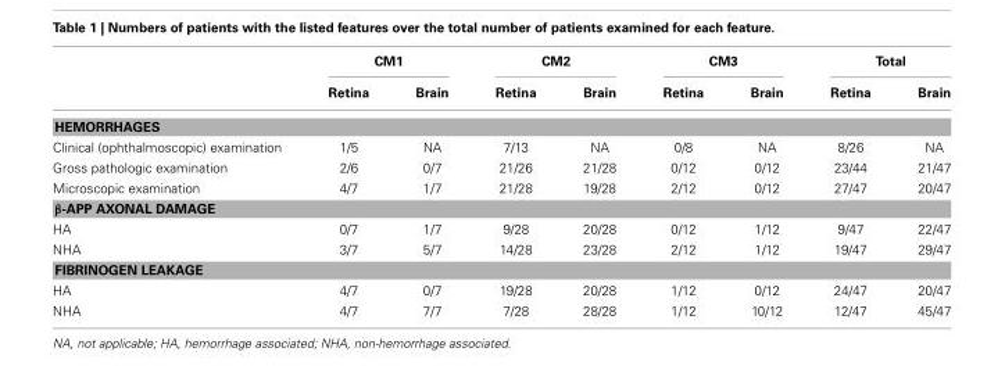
<table><thead><tr><td rowspan="2"></td><td colspan="2">CM1</td><td colspan="2">CM2</td><td colspan="2">CM3</td><td colspan="2">Total</td></tr><tr><td>Retina</td><td>Brain</td><td>Retina</td><td>Brain</td><td>Retina</td><td>Brain</td><td>Retina</td><td>Brain</td></tr></thead><tbody><tr><td colspan="9">HEMORRHAGES</td></tr><tr><td>Clinical (ophthalmoscopic) examination</td><td>1/5</td><td>NA</td><td>7/13</td><td>NA</td><td>0/8</td><td>NA</td><td>8/26</td><td>NA</td></tr><tr><td>Gross pathologic examination</td><td>2/6</td><td>0/7</td><td>21/26</td><td>21/28</td><td>0/12</td><td>0/12</td><td>23/44</td><td>21/47</td></tr><tr><td>Microscopic examination</td><td>4/7</td><td>1/7</td><td>21/28</td><td>19/28</td><td>2/12</td><td>0/12</td><td>27/47</td><td>20/47</td></tr><tr><td colspan="9">β-APP AXONAL DAMAGE</td></tr><tr><td>HA</td><td>0/7</td><td>1/7</td><td>9/28</td><td>20/28</td><td>0/12</td><td>1/12</td><td>9/47</td><td>22/47</td></tr><tr><td>NHA</td><td>3/7</td><td>5/7</td><td>14/28</td><td>23/28</td><td>2/12</td><td>1/12</td><td>19/47</td><td>29/47</td></tr><tr><td colspan="9">FIBRINOGEN LEAKAGE</td></tr><tr><td>HA</td><td>4/7</td><td>0/7</td><td>19/28</td><td>20/28</td><td>1/12</td><td>0/12</td><td>24/47</td><td>20/47</td></tr><tr><td>NHA</td><td>4/7</td><td>7/7</td><td>7/28</td><td>28/28</td><td>1/12</td><td>10/12</td><td>12/47</td><td>45/47</td></tr></tbody></table>